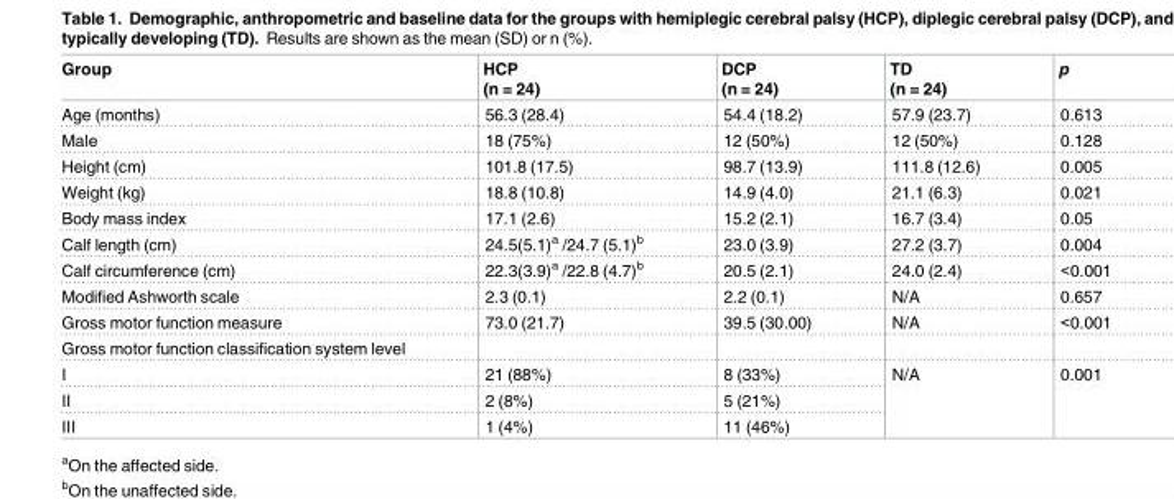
<table><thead><tr><td>Group</td><td>HCP (n = 24)</td><td>DCP (n = 24)</td><td>TD (n = 24)</td><td>p</td></tr></thead><tbody><tr><td>Age (months)</td><td>56.3 (28.4)</td><td>54.4 (18.2)</td><td>57.9 (23.7)</td><td>0.613</td></tr><tr><td>Male</td><td>18 (75%)</td><td>12 (50%)</td><td>12 (50%)</td><td>0.128</td></tr><tr><td>Height (cm)</td><td>101.8 (17.5)</td><td>98.7 (13.9)</td><td>111.8 (12.6)</td><td>0.005</td></tr><tr><td>Weight (kg)</td><td>18.8 (10.8)</td><td>14.9 (4.0)</td><td>21.1 (6.3)</td><td>0.021</td></tr><tr><td>Body mass index</td><td>17.1 (2.6)</td><td>15.2 (2.1)</td><td>16.7 (3.4)</td><td>0.05</td></tr><tr><td>Calf length (cm)</td><td>24.5(5.1)<sup>a</sup> /24.7 (5.1)<sup>b</sup></td><td>23.0 (3.9)</td><td>27.2 (3.7)</td><td>0.004</td></tr><tr><td>Calf circumference (cm)</td><td>22.3(3.9)<sup>a</sup> /22.8 (4.7)<sup>b</sup></td><td>20.5 (2.1)</td><td>24.0 (2.4)</td><td>&lt;0.001</td></tr><tr><td>Modified Ashworth scale</td><td>2.3 (0.1)</td><td>2.2 (0.1)</td><td>N/A</td><td>0.657</td></tr><tr><td>Gross motor function measure</td><td>73.0 (21.7)</td><td>39.5 (30.00)</td><td>N/A</td><td>&lt;0.001</td></tr><tr><td colspan="5">Gross motor function classification system level</td></tr><tr><td>I</td><td>21 (88%)</td><td>8 (33%)</td><td rowspan="3">N/A</td><td rowspan="3">0.001</td></tr><tr><td>II</td><td>2 (8%)</td><td>5 (21%)</td></tr><tr><td>III</td><td>1 (4%)</td><td>11 (46%)</td></tr></tbody></table>